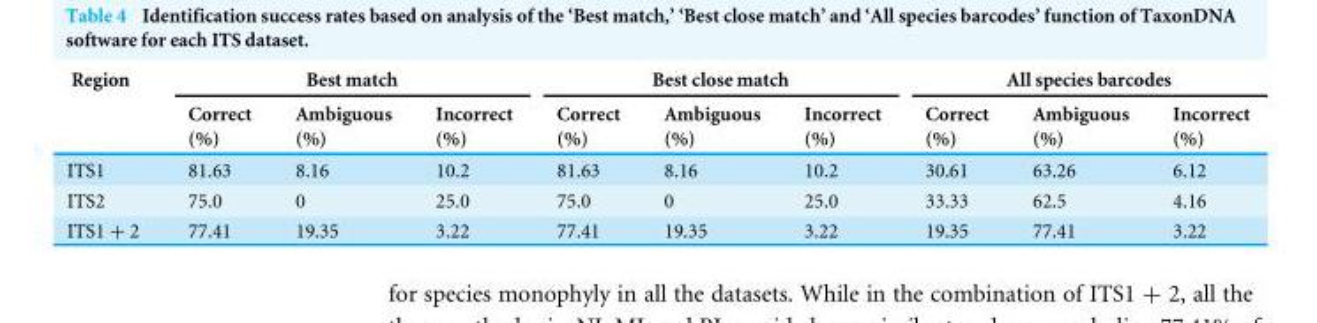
<table><thead><tr><td rowspan="2">Region</td><td colspan="3">Best match</td><td colspan="3">Best close match</td><td colspan="3">All species barcodes</td></tr><tr><td>Correct (%)</td><td>Ambiguous (%)</td><td>Incorrect (%)</td><td>Correct (%)</td><td>Ambiguous (%)</td><td>Incorrect (%)</td><td>Correct (%)</td><td>Ambiguous (%)</td><td>Incorrect (%)</td></tr></thead><tbody><tr><td>ITS1</td><td>81.63</td><td>8.16</td><td>10.2</td><td>81.63</td><td>8.16</td><td>10.2</td><td>30.61</td><td>63.26</td><td>6.12</td></tr><tr><td>ITS2</td><td>75.0</td><td>0</td><td>25.0</td><td>75.0</td><td>0</td><td>25.0</td><td>33.33</td><td>62.5</td><td>4.16</td></tr><tr><td>ITS1 + 2</td><td>77.41</td><td>19.35</td><td>3.22</td><td>77.41</td><td>19.35</td><td>3.22</td><td>19.35</td><td>77.41</td><td>3.22</td></tr></tbody></table>